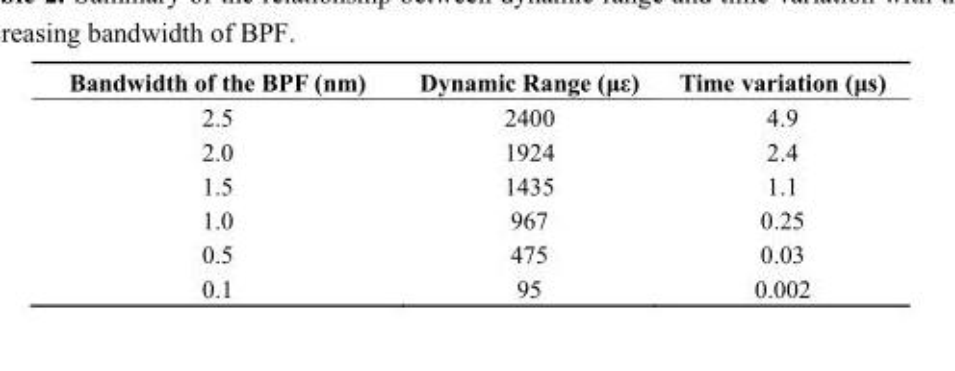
<table><thead><tr><td>Bandwidth of the BPF (nm)</td><td>Dynamic Range (με)</td><td>Time variation (μs)</td></tr></thead><tbody><tr><td>2.5</td><td>2400</td><td>4.9</td></tr><tr><td>2.0</td><td>1924</td><td>2.4</td></tr><tr><td>1.5</td><td>1435</td><td>1.1</td></tr><tr><td>1.0</td><td>967</td><td>0.25</td></tr><tr><td>0.5</td><td>475</td><td>0.03</td></tr><tr><td>0.1</td><td>95</td><td>0.002</td></tr></tbody></table>